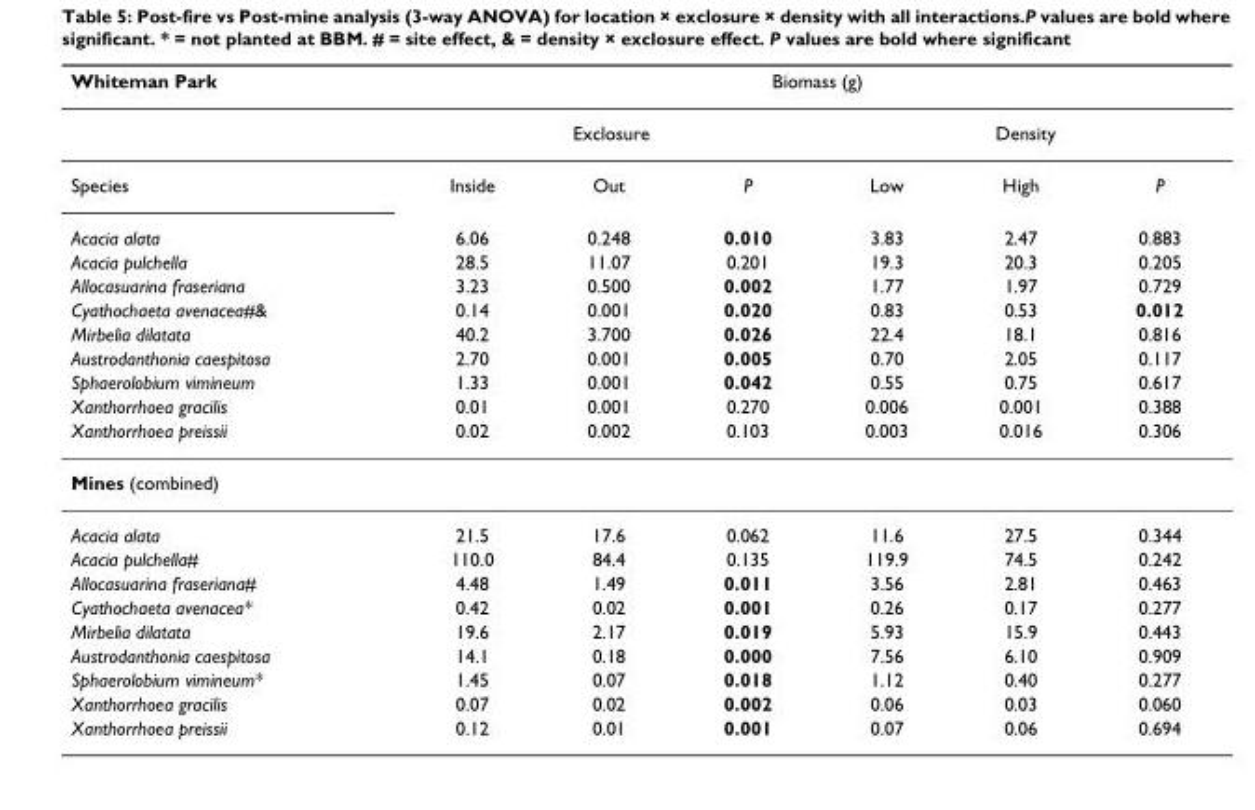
<table><thead><tr><td rowspan="3">Whiteman Park Species</td><td colspan="6">Biomass (g)</td></tr><tr><td colspan="3">Exclosure</td><td colspan="3">Density</td></tr><tr><td>Inside</td><td>Out</td><td>P</td><td>Low</td><td>High</td><td>P</td></tr></thead><tbody><tr><td>Acacia alata</td><td>6.06</td><td>0.248</td><td>0.010</td><td>3.83</td><td>2.47</td><td>0.883</td></tr><tr><td>Acacia pulchella</td><td>28.5</td><td>11.07</td><td>0.201</td><td>19.3</td><td>20.3</td><td>0.205</td></tr><tr><td>Allocasuarina fraseriana</td><td>3.23</td><td>0.500</td><td>0.002</td><td>1.77</td><td>1.97</td><td>0.729</td></tr><tr><td>Cyathochaeta avenacea#&amp;</td><td>0.14</td><td>0.001</td><td>0.020</td><td>0.83</td><td>0.53</td><td>0.012</td></tr><tr><td>Mirbelia dilatata</td><td>40.2</td><td>3.700</td><td>0.026</td><td>22.4</td><td>18.1</td><td>0.816</td></tr><tr><td>Austrodanthonia caespitosa</td><td>2.70</td><td>0.001</td><td>0.005</td><td>0.70</td><td>2.05</td><td>0.117</td></tr><tr><td>Sphaerolobium vimineum</td><td>1.33</td><td>0.001</td><td>0.042</td><td>0.55</td><td>0.75</td><td>0.617</td></tr><tr><td>Xanthorrhoea gracilis</td><td>0.01</td><td>0.001</td><td>0.270</td><td>0.006</td><td>0.001</td><td>0.388</td></tr><tr><td>Xanthorrhoea preissii</td><td>0.02</td><td>0.002</td><td>0.103</td><td>0.003</td><td>0.016</td><td>0.306</td></tr><tr><td colspan="7">Mines (combined)</td></tr><tr><td>Acacia alata</td><td>21.5</td><td>17.6</td><td>0.062</td><td>11.6</td><td>27.5</td><td>0.344</td></tr><tr><td>Acacia pulchella#</td><td>110.0</td><td>84.4</td><td>0.135</td><td>119.9</td><td>74.5</td><td>0.242</td></tr><tr><td>Allocasuarina fraseriana#</td><td>4.48</td><td>1.49</td><td>0.011</td><td>3.56</td><td>2.81</td><td>0.463</td></tr><tr><td>Cyathochaeta avenacea*</td><td>0.42</td><td>0.02</td><td>0.001</td><td>0.26</td><td>0.17</td><td>0.277</td></tr><tr><td>Mirbelia dilatata</td><td>19.6</td><td>2.17</td><td>0.019</td><td>5.93</td><td>15.9</td><td>0.443</td></tr><tr><td>Austrodanthonia caespitosa</td><td>14.1</td><td>0.18</td><td>0.000</td><td>7.56</td><td>6.10</td><td>0.909</td></tr><tr><td>Sphaerolobium vimineum*</td><td>1.45</td><td>0.07</td><td>0.018</td><td>1.12</td><td>0.40</td><td>0.277</td></tr><tr><td>Xanthorrhoea gracilis</td><td>0.07</td><td>0.02</td><td>0.002</td><td>0.06</td><td>0.03</td><td>0.060</td></tr><tr><td>Xanthorrhoea preissii</td><td>0.12</td><td>0.01</td><td>0.001</td><td>0.07</td><td>0.06</td><td>0.694</td></tr></tbody></table>